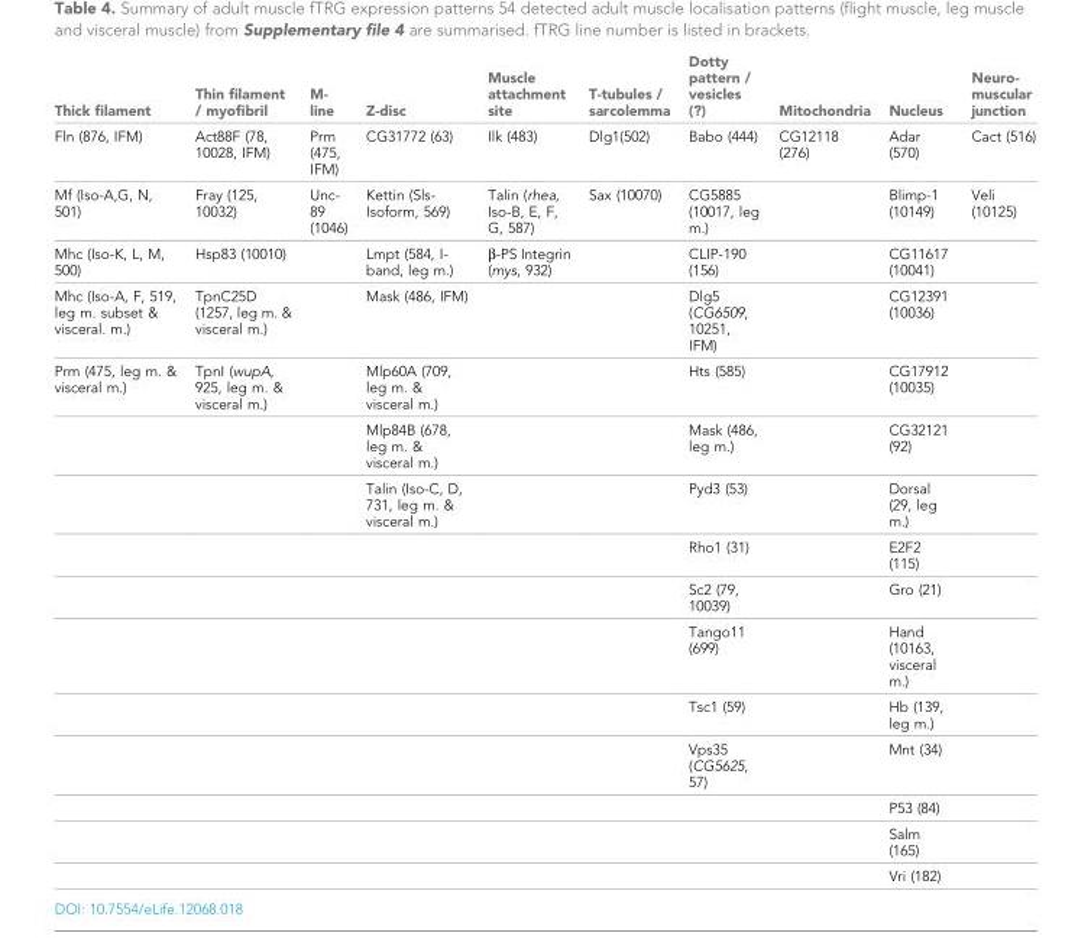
<table><thead><tr><td>Thick filament</td><td>Thin filament / myofibril</td><td>M- line</td><td>Z-disc</td><td>Muscle attachment site</td><td>T-tubules / sarcolemma</td><td>Dotty pattern / vesicles (?)</td><td>Mitochondria</td><td>Nucleus</td><td>Neuro- muscular junction</td></tr></thead><tbody><tr><td>Fln (876, IFM)</td><td>Act88F (78, 10028, IFM)</td><td>Prm (475, IFM)</td><td>CG31772 (63)</td><td>Ilk (483)</td><td>Dlg1(502)</td><td>Babo (444)</td><td>CG12118 (276)</td><td>Adar (570)</td><td>Cact (516)</td></tr><tr><td>Mf (Iso-A,G, N, 501)</td><td>Fray (125, 10032)</td><td>Unc- 89 (1046)</td><td>Kettin (Sls- Isoform, 569)</td><td>Talin (rhea, Iso-B, E, F, G, 587)</td><td>Sax (10070)</td><td>CG5885 (10017, leg m.)</td><td></td><td>Blimp-1 (10149)</td><td>Veli (10125)</td></tr><tr><td>Mhc (Iso-K, L, M, 500)</td><td>Hsp83 (10010)</td><td></td><td>Lmpt (584, I- band, leg m.)</td><td>β-PS Integrin (mys, 932)</td><td></td><td>CLIP-190 (156)</td><td></td><td>CG11617 (10041)</td><td></td></tr><tr><td>Mhc (Iso-A, F, 519, leg m. subset &amp; visceral. m.)</td><td>TpnC25D (1257, leg m. &amp; visceral m.)</td><td></td><td>Mask (486, IFM)</td><td></td><td></td><td>Dlg5 (CG6509, 10251, IFM)</td><td></td><td>CG12391 (10036)</td><td></td></tr><tr><td rowspan="11">Prm (475, leg m. &amp; visceral m.)</td><td>TpnI (wupA, 925, leg m. &amp; visceral m.)</td><td></td><td>Mlp60A (709, leg m. &amp; visceral m.)</td><td></td><td></td><td>Hts (585)</td><td></td><td>CG17912 (10035)</td><td></td></tr><tr><td></td><td></td><td>Mlp84B (678, leg m. &amp; visceral m.)</td><td></td><td></td><td>Mask (486, leg m.)</td><td></td><td>CG32121 (92)</td><td></td></tr><tr><td></td><td></td><td>Talin (Iso-C, D, 731, leg m. &amp; visceral m.)</td><td></td><td></td><td>Pyd3 (53)</td><td></td><td>Dorsal (29, leg m.)</td><td></td></tr><tr><td></td><td></td><td></td><td></td><td></td><td>Rho1 (31)</td><td></td><td>E2F2 (115)</td><td></td></tr><tr><td></td><td></td><td></td><td></td><td></td><td>Sc2 (79, 10039)</td><td></td><td>Gro (21)</td><td></td></tr><tr><td></td><td></td><td></td><td></td><td></td><td>Tango11 (699)</td><td></td><td>Hand (10163, visceral m.)</td><td></td></tr><tr><td></td><td></td><td></td><td></td><td></td><td>Tsc1 (59)</td><td></td><td>Hb (139, leg m.)</td><td></td></tr><tr><td></td><td></td><td></td><td></td><td></td><td>Vps35 (CG5625, 57)</td><td></td><td>Mnt (34)</td><td></td></tr><tr><td></td><td></td><td></td><td></td><td></td><td></td><td></td><td>P53 (84)</td><td></td></tr><tr><td></td><td></td><td></td><td></td><td></td><td></td><td></td><td>Salm (165)</td><td></td></tr><tr><td></td><td></td><td></td><td></td><td></td><td></td><td></td><td>Vri (182)</td><td></td></tr></tbody></table>